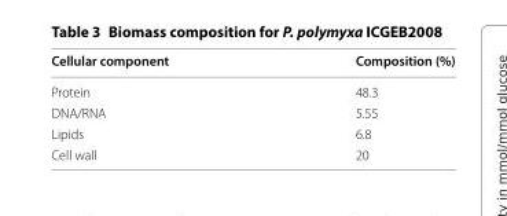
<table><thead><tr><td>Cellular component</td><td>Composition (%)</td></tr></thead><tbody><tr><td>Protein</td><td>48.3</td></tr><tr><td>DNA/RNA</td><td>5.55</td></tr><tr><td>Lipids</td><td>6.8</td></tr><tr><td>Cell wall</td><td>20</td></tr></tbody></table>